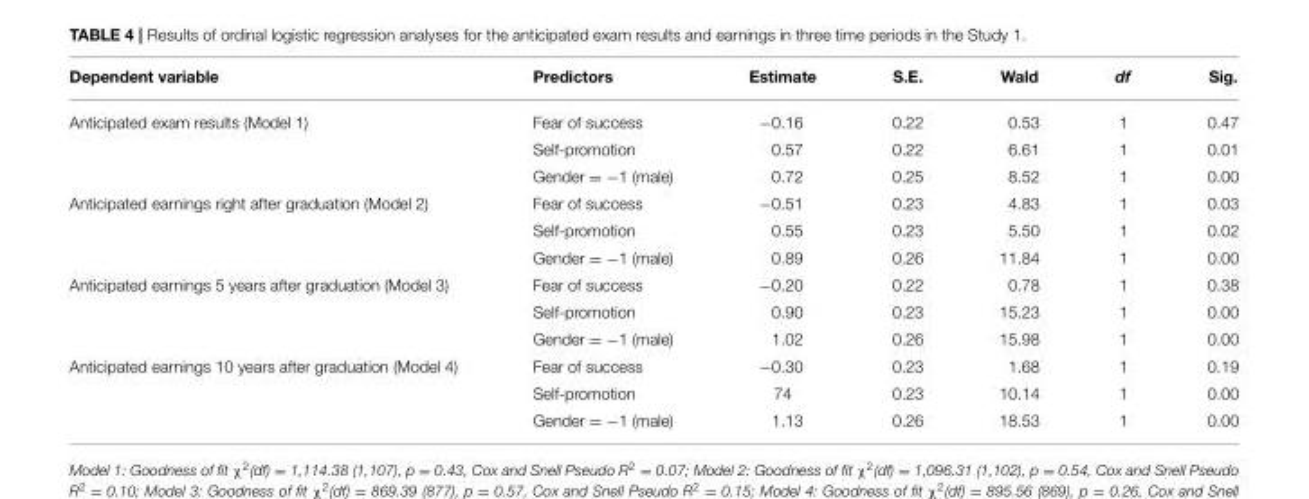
<table><thead><tr><td>Dependent variable</td><td>Predictors</td><td>Estimate</td><td>S.E.</td><td>Wald</td><td>df</td><td>Sig.</td></tr></thead><tbody><tr><td rowspan="3">Anticipated exam results (Model 1)</td><td>Fear of success</td><td>−0.16</td><td>0.22</td><td>0.53</td><td>1</td><td>0.47</td></tr><tr><td>Self-promotion</td><td>0.57</td><td>0.22</td><td>6.61</td><td>1</td><td>0.01</td></tr><tr><td>Gender = −1 (male)</td><td>0.72</td><td>0.25</td><td>8.52</td><td>1</td><td>0.00</td></tr><tr><td rowspan="3">Anticipated earnings right after graduation (Model 2)</td><td>Fear of success</td><td>−0.51</td><td>0.23</td><td>4.83</td><td>1</td><td>0.03</td></tr><tr><td>Self-promotion</td><td>0.55</td><td>0.23</td><td>5.50</td><td>1</td><td>0.02</td></tr><tr><td>Gender = −1 (male)</td><td>0.89</td><td>0.26</td><td>11.84</td><td>1</td><td>0.00</td></tr><tr><td rowspan="3">Anticipated earnings 5 years after graduation (Model 3)</td><td>Fear of success</td><td>−0.20</td><td>0.22</td><td>0.78</td><td>1</td><td>0.38</td></tr><tr><td>Self-promotion</td><td>0.90</td><td>0.23</td><td>15.23</td><td>1</td><td>0.00</td></tr><tr><td>Gender = −1 (male)</td><td>1.02</td><td>0.26</td><td>15.98</td><td>1</td><td>0.00</td></tr><tr><td rowspan="3">Anticipated earnings 10 years after graduation (Model 4)</td><td>Fear of success</td><td>−0.30</td><td>0.23</td><td>1.68</td><td>1</td><td>0.19</td></tr><tr><td>Self-promotion</td><td>74</td><td>0.23</td><td>10.14</td><td>1</td><td>0.00</td></tr><tr><td>Gender = −1 (male)</td><td>1.13</td><td>0.26</td><td>18.53</td><td>1</td><td>0.00</td></tr></tbody></table>